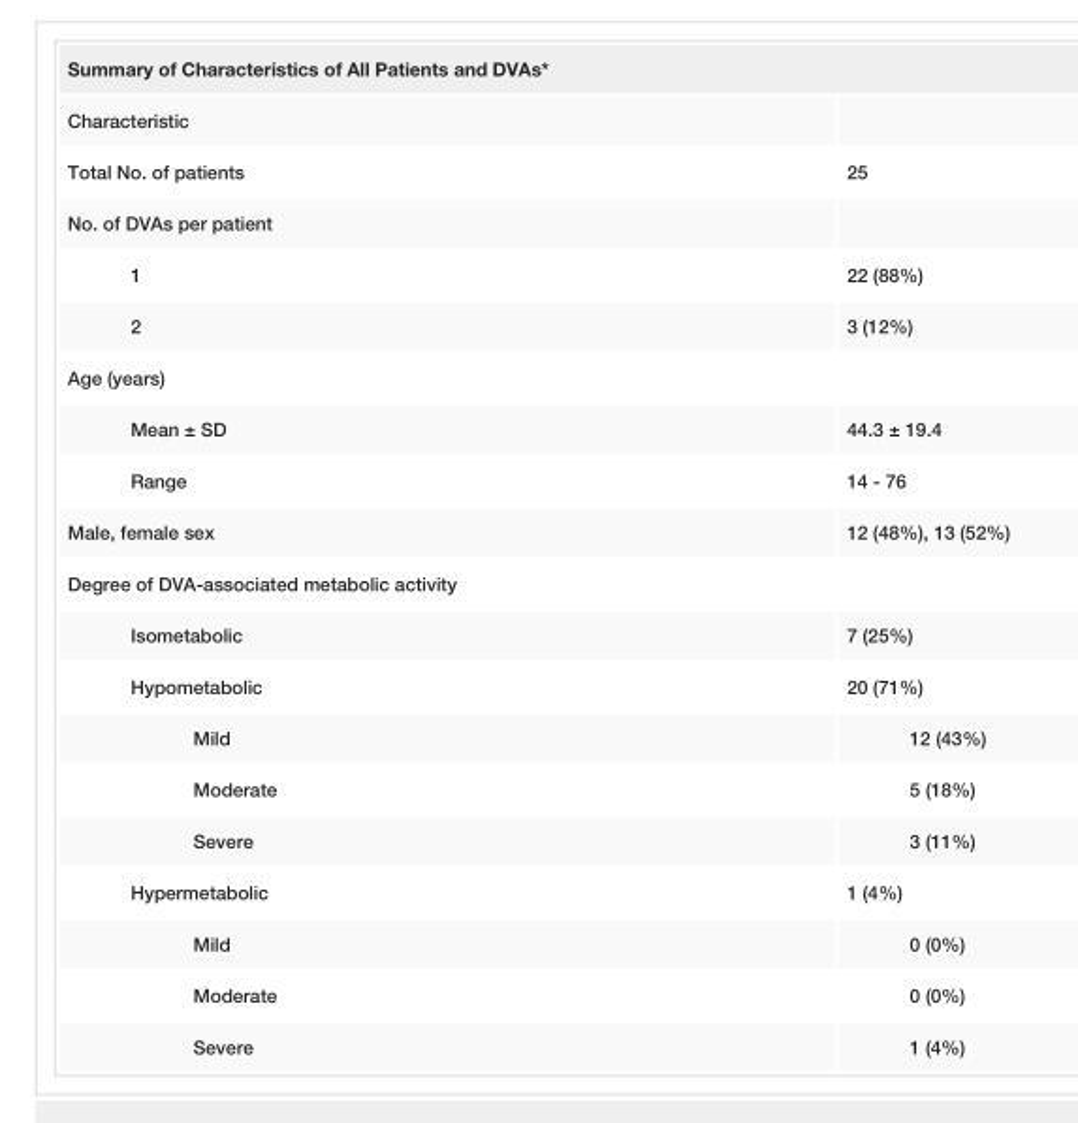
<table><tbody><tr><td colspan="2">Summary of Characteristics of All Patients and DVAs*</td></tr><tr><td colspan="2">Characteristic</td></tr><tr><td>Total No. of patients</td><td>25</td></tr><tr><td colspan="2">No. of DVAs per patient</td></tr><tr><td>1</td><td>22 (88%)</td></tr><tr><td>2</td><td>3 (12%)</td></tr><tr><td colspan="2">Age (years)</td></tr><tr><td>Mean ± SD</td><td>44.3 ± 19.4</td></tr><tr><td>Range</td><td>14 - 76</td></tr><tr><td>Male, female sex</td><td>12 (48%), 13 (52%)</td></tr><tr><td colspan="2">Degree of DVA-associated metabolic activity</td></tr><tr><td>Isometabolic</td><td>7 (25%)</td></tr><tr><td>Hypometabolic</td><td>20 (71%)</td></tr><tr><td>Mild</td><td>12 (43%)</td></tr><tr><td>Moderate</td><td>5 (18%)</td></tr><tr><td>Severe</td><td>3 (11%)</td></tr><tr><td>Hypermetabolic</td><td>1 (4%)</td></tr><tr><td>Mild</td><td>0 (0%)</td></tr><tr><td>Moderate</td><td>0 (0%)</td></tr><tr><td>Severe</td><td>1 (4%)</td></tr></tbody></table>